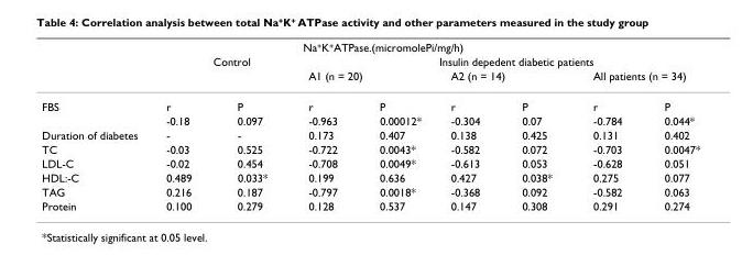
<table><thead><tr><td colspan="9">Na<sup>+</sup>K<sup>+</sup>ATPase.(micromolePi/mg/h)</td></tr><tr><td rowspan="3">FBS</td><td colspan="2">Control</td><td colspan="6">Insulin depedent diabetic patients</td></tr><tr><td rowspan="2">r</td><td rowspan="2">P</td><td colspan="2">A1 (n = 20)</td><td colspan="2">A2 (n = 14)</td><td colspan="2">All patients (n = 34)</td></tr><tr><td>r</td><td>P</td><td>r</td><td>P</td><td>r</td><td>P</td></tr></thead><tbody><tr><td></td><td>-0.18</td><td>0.097</td><td>-0.963</td><td>0.00012*</td><td>-0.304</td><td>0.07</td><td>-0.784</td><td>0.044*</td></tr><tr><td>Duration of diabetes</td><td>-</td><td>-</td><td>0.173</td><td>0.407</td><td>0.138</td><td>0.425</td><td>0.131</td><td>0.402</td></tr><tr><td>TC</td><td>-0.03</td><td>0.525</td><td>-0.722</td><td>0.0043*</td><td>-0.582</td><td>0.072</td><td>-0.703</td><td>0.0047*</td></tr><tr><td>LDL-C</td><td>-0.02</td><td>0.454</td><td>-0.708</td><td>0.0049*</td><td>-0.613</td><td>0.053</td><td>-0.628</td><td>0.051</td></tr><tr><td>HDL:-C</td><td>0.489</td><td>0.033*</td><td>0.199</td><td>0.636</td><td>0.427</td><td>0.038*</td><td>0.275</td><td>0.077</td></tr><tr><td>TAG</td><td>0.216</td><td>0.187</td><td>-0.797</td><td>0.0018*</td><td>-0.368</td><td>0.092</td><td>-0.582</td><td>0.063</td></tr><tr><td>Protein</td><td>0.100</td><td>0.279</td><td>0.128</td><td>0.537</td><td>0.147</td><td>0.308</td><td>0.291</td><td>0.274</td></tr></tbody></table>